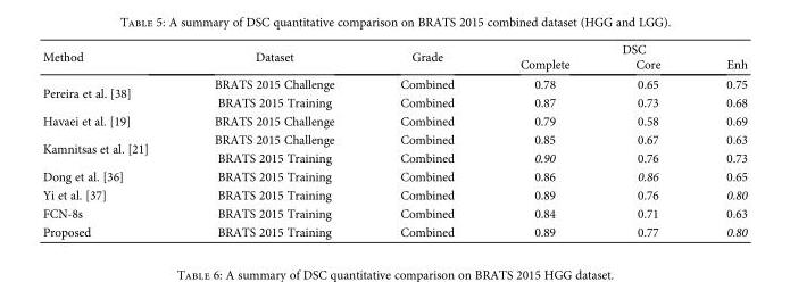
<table><thead><tr><td rowspan="2">Method</td><td rowspan="2">Dataset</td><td rowspan="2">Grade</td><td colspan="3">DSC</td></tr><tr><td>Complete</td><td>Core</td><td>Enh</td></tr></thead><tbody><tr><td rowspan="2">Pereira et al. [38]</td><td>BRATS 2015 Challenge</td><td>Combined</td><td>0.78</td><td>0.65</td><td>0.75</td></tr><tr><td>BRATS 2015 Training</td><td>Combined</td><td>0.87</td><td>0.73</td><td>0.68</td></tr><tr><td>Havaei et al. [19]</td><td>BRATS 2015 Challenge</td><td>Combined</td><td>0.79</td><td>0.58</td><td>0.69</td></tr><tr><td rowspan="2">Kamnitsas et al. [21]</td><td>BRATS 2015 Challenge</td><td>Combined</td><td>0.85</td><td>0.67</td><td>0.63</td></tr><tr><td>BRATS 2015 Training</td><td>Combined</td><td>0.90</td><td>0.76</td><td>0.73</td></tr><tr><td>Dong et al. [36]</td><td>BRATS 2015 Training</td><td>Combined</td><td>0.86</td><td>0.86</td><td>0.65</td></tr><tr><td>Yi et al. [37]</td><td>BRATS 2015 Training</td><td>Combined</td><td>0.89</td><td>0.76</td><td>0.80</td></tr><tr><td>FCN-8s</td><td>BRATS 2015 Training</td><td>Combined</td><td>0.84</td><td>0.71</td><td>0.63</td></tr><tr><td>Proposed</td><td>BRATS 2015 Training</td><td>Combined</td><td>0.89</td><td>0.77</td><td>0.80</td></tr></tbody></table>